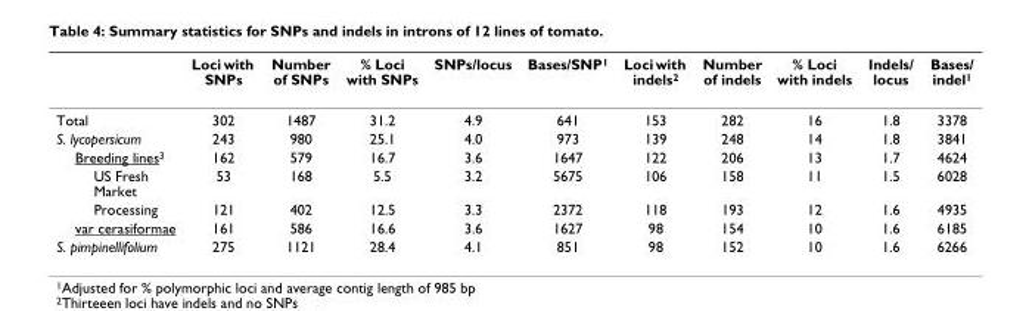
<table><thead><tr><td></td><td>Loci with SNPs</td><td>Number of SNPs</td><td>% Loci with SNPs</td><td>SNPs/locus</td><td>Bases/SNP<sup>1</sup></td><td>Loci with indels<sup>2</sup></td><td>Number of indels</td><td>% Loci with indels</td><td>Indels/ locus</td><td>Bases/ indel<sup>1</sup></td></tr></thead><tbody><tr><td>Total</td><td>302</td><td>1487</td><td>31.2</td><td>4.9</td><td>641</td><td>153</td><td>282</td><td>16</td><td>1.8</td><td>3378</td></tr><tr><td>S. lycopersicum</td><td>243</td><td>980</td><td>25.1</td><td>4.0</td><td>973</td><td>139</td><td>248</td><td>14</td><td>1.8</td><td>3841</td></tr><tr><td>Breeding lines<sup>3</sup></td><td>162</td><td>579</td><td>16.7</td><td>3.6</td><td>1647</td><td>122</td><td>206</td><td>13</td><td>1.7</td><td>4624</td></tr><tr><td>US Fresh Market</td><td>53</td><td>168</td><td>5.5</td><td>3.2</td><td>5675</td><td>106</td><td>158</td><td>11</td><td>1.5</td><td>6028</td></tr><tr><td>Processing</td><td>121</td><td>402</td><td>12.5</td><td>3.3</td><td>2372</td><td>118</td><td>193</td><td>12</td><td>1.6</td><td>4935</td></tr><tr><td>var cerasiformae</td><td>161</td><td>586</td><td>16.6</td><td>3.6</td><td>1627</td><td>98</td><td>154</td><td>10</td><td>1.6</td><td>6185</td></tr><tr><td>S. pimpinellifolium</td><td>275</td><td>1121</td><td>28.4</td><td>4.1</td><td>851</td><td>98</td><td>152</td><td>10</td><td>1.6</td><td>6266</td></tr></tbody></table>